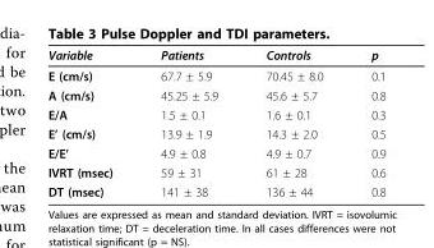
<table><thead><tr><td>Variable</td><td>Patients</td><td>Controls</td><td>p</td></tr></thead><tbody><tr><td>E (cm/s)</td><td>67.7 ± 5.9</td><td>70.45 ± 8.0</td><td>0.1</td></tr><tr><td>A (cm/s)</td><td>45.25 ± 5.9</td><td>45.6 ± 5.7</td><td>0.8</td></tr><tr><td>E/A</td><td>1.5 ± 0.1</td><td>1.6 ± 0.1</td><td>0.3</td></tr><tr><td>E’ (cm/s)</td><td>13.9 ± 1.9</td><td>14.3 ± 2.0</td><td>0.5</td></tr><tr><td>E/E’</td><td>4.9 ± 0.8</td><td>4.9 ± 0.7</td><td>0.9</td></tr><tr><td>IVRT (msec)</td><td>59 ± 31</td><td>61 ± 28</td><td>0.6</td></tr><tr><td>DT (msec)</td><td>141 ± 38</td><td>136 ± 44</td><td>0.8</td></tr></tbody></table>